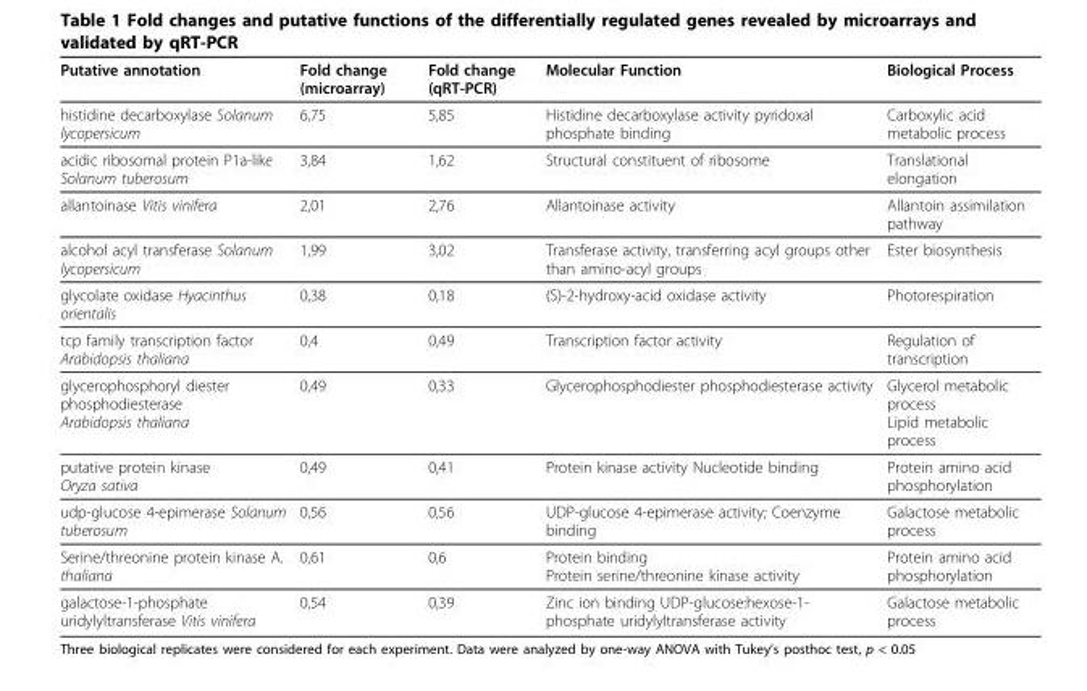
<table><thead><tr><td>Putative annotation</td><td>Fold change (microarray)</td><td>Fold change (qRT-PCR)</td><td>Molecular Function</td><td>Biological Process</td></tr></thead><tbody><tr><td>histidine decarboxylase Solanum lycopersicum</td><td>6,75</td><td>5,85</td><td>Histidine decarboxylase activity pyridoxal phosphate binding</td><td>Carboxylic acid metabolic process</td></tr><tr><td>acidic ribosomal protein P1a-like Solanum tuberosum</td><td>3,84</td><td>1,62</td><td>Structural constituent of ribosome</td><td>Translational elongation</td></tr><tr><td>allantoinase Vitis vinifera</td><td>2,01</td><td>2,76</td><td>Allantoinase activity</td><td>Allantoin assimilation pathway</td></tr><tr><td>alcohol acyl transferase Solanum lycopersicum</td><td>1,99</td><td>3,02</td><td>Transferase activity, transferring acyl groups other than amino-acyl groups</td><td>Ester biosynthesis</td></tr><tr><td>glycolate oxidase Hyacinthus orientalis</td><td>0,38</td><td>0,18</td><td>(S)-2-hydroxy-acid oxidase activity</td><td>Photorespiration</td></tr><tr><td>tcp family transcription factor Arabidopsis thaliana</td><td>0,4</td><td>0,49</td><td>Transcription factor activity</td><td>Regulation of transcription</td></tr><tr><td>glycerophosphoryl diester phosphodiesterase Arabidopsis thaliana</td><td>0,49</td><td>0,33</td><td>Glycerophosphodiester phosphodiesterase activity</td><td>Glycerol metabolic process Lipid metabolic process</td></tr><tr><td>putative protein kinase Oryza sativa</td><td>0,49</td><td>0,41</td><td>Protein kinase activity Nucleotide binding</td><td>Protein amino acid phosphorylation</td></tr><tr><td>udp-glucose 4-epimerase Solanum tuberosum</td><td>0,56</td><td>0,56</td><td>UDP-glucose 4-epimerase activity; Coenzyme binding</td><td>Galactose metabolic process</td></tr><tr><td>Serine/threonine protein kinase A. thaliana</td><td>0,61</td><td>0,6</td><td>Protein binding Protein serine/threonine kinase activity</td><td>Protein amino acid phosphorylation</td></tr><tr><td>galactose-1-phosphate uridylyltransferase Vitis vinifera</td><td>0,54</td><td>0,39</td><td>Zinc ion binding UDP-glucose:hexose-1- phosphate uridylyltransferase activity</td><td>Galactose metabolic process</td></tr></tbody></table>